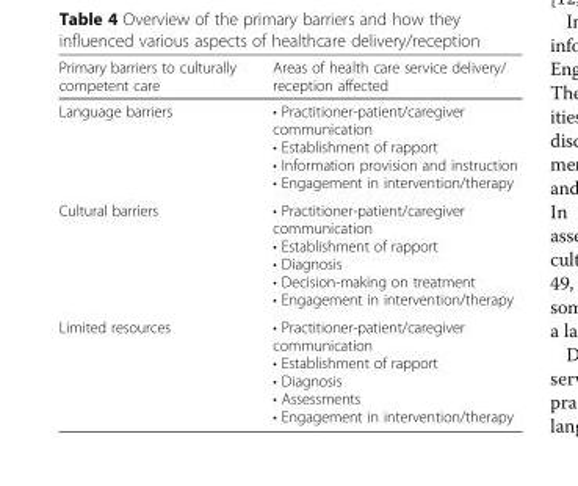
<table><thead><tr><td>Primary barriers to culturally competent care</td><td>Areas of health care service delivery/ reception affected</td></tr></thead><tbody><tr><td>Language barriers</td><td>• Practitioner-patient/caregiver communication • Establishment of rapport • Information provision and instruction • Engagement in intervention/therapy</td></tr><tr><td>Cultural barriers</td><td>• Practitioner-patient/caregiver communication • Establishment of rapport • Diagnosis • Decision-making on treatment • Engagement in intervention/therapy</td></tr><tr><td>Limited resources</td><td>• Practitioner-patient/caregiver communication • Establishment of rapport • Diagnosis • Assessments • Engagement in intervention/therapy</td></tr></tbody></table>